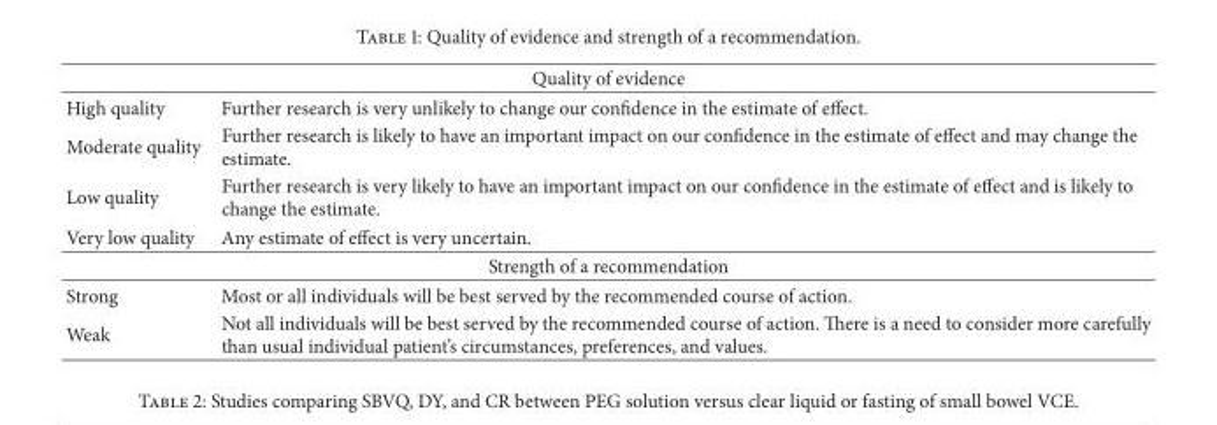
<table><thead><tr><td colspan="2">Quality of evidence</td></tr><tr><td>High quality</td><td>Further research is very unlikely to change our confidence in the estimate of effect.</td></tr></thead><tbody><tr><td>Moderate quality</td><td>Further research is likely to have an important impact on our confidence in the estimate of effect and may change the estimate.</td></tr><tr><td>Low quality</td><td>Further research is very likely to have an important impact on our confidence in the estimate of effect and is likely to change the estimate.</td></tr><tr><td>Very low quality</td><td>Any estimate of effect is very uncertain.</td></tr><tr><td colspan="2">Strength of a recommendation</td></tr><tr><td>Strong</td><td>Most or all individuals will be best served by the recommended course of action.</td></tr><tr><td>Weak</td><td>Not all individuals will be best served by the recommended course of action. There is a need to consider more carefully than usual individual patient’s circumstances, preferences, and values.</td></tr></tbody></table>